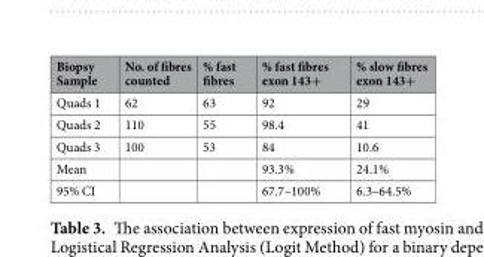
<table><thead><tr><td>Biopsy Sample</td><td>No. of fibres counted</td><td>% fast fibres</td><td>% fast fibres exon 143+</td><td>% slow fibres exon 143+</td></tr></thead><tbody><tr><td>Quads 1</td><td>62</td><td>63</td><td>92</td><td>29</td></tr><tr><td>Quads 2</td><td>110</td><td>55</td><td>98.4</td><td>41</td></tr><tr><td>Quads 3</td><td>100</td><td>53</td><td>84</td><td>10.6</td></tr><tr><td>Mean</td><td></td><td></td><td>93.3%</td><td>24.1%</td></tr><tr><td>95% CI</td><td></td><td></td><td>67.7–100%</td><td>6.3–64.5%</td></tr></tbody></table>